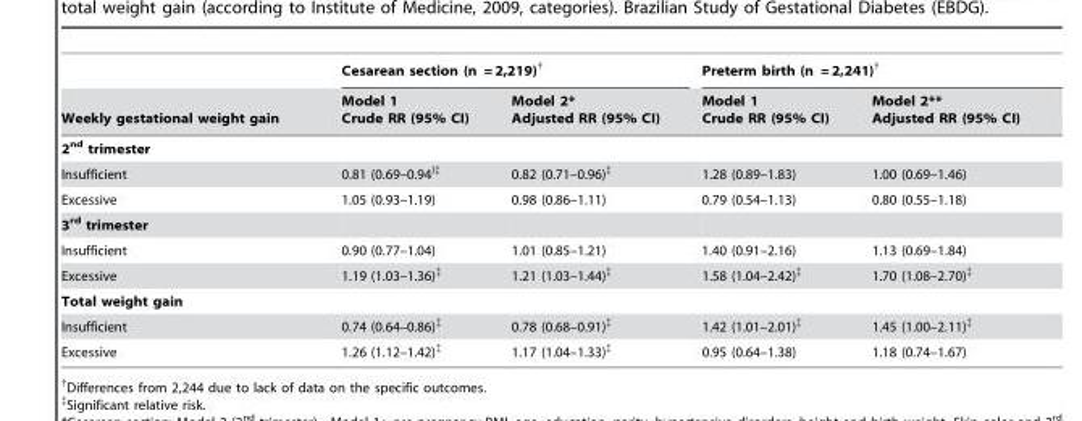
<table><thead><tr><td rowspan="2">Weekly gestational weight gain</td><td colspan="2">Cesarean section (n = 2,219)†</td><td colspan="2">Preterm birth (n = 2,241)†</td></tr><tr><td>Model 1 Crude RR (95% CI)</td><td>Model 2* Adjusted RR (95% CI)</td><td>Model 1 Crude RR (95% CI)</td><td>Model 2** Adjusted RR (95% CI)</td></tr></thead><tbody><tr><td colspan="5">2<sup>nd</sup> trimester</td></tr><tr><td>Insufficient</td><td>0.81 (0.69–0.94<sup>)</sup>‡</td><td>0.82 (0.71–0.96)‡</td><td>1.28 (0.89–1.83)</td><td>1.00 (0.69–1.46)</td></tr><tr><td>Excessive</td><td>1.05 (0.93–1.19)</td><td>0.98 (0.86–1.11)</td><td>0.79 (0.54–1.13)</td><td>0.80 (0.55–1.18)</td></tr><tr><td colspan="5">3<sup>rd</sup> trimester</td></tr><tr><td>Insufficient</td><td>0.90 (0.77–1.04)</td><td>1.01 (0.85–1.21)</td><td>1.40 (0.91–2.16)</td><td>1.13 (0.69–1.84)</td></tr><tr><td>Excessive</td><td>1.19 (1.03–1.36)‡</td><td>1.21 (1.03–1.44)‡</td><td>1.58 (1.04–2.42)‡</td><td>1.70 (1.08–2.70)‡</td></tr><tr><td colspan="5">Total weight gain</td></tr><tr><td>Insufficient</td><td>0.74 (0.64–0.86)‡</td><td>0.78 (0.68–0.91)‡</td><td>1.42 (1.01–2.01)‡</td><td>1.45 (1.00–2.11)‡</td></tr><tr><td>Excessive</td><td>1.26 (1.12–1.42)‡</td><td>1.17 (1.04–1.33)‡</td><td>0.95 (0.64–1.38)</td><td>1.18 (0.74–1.67)</td></tr></tbody></table>